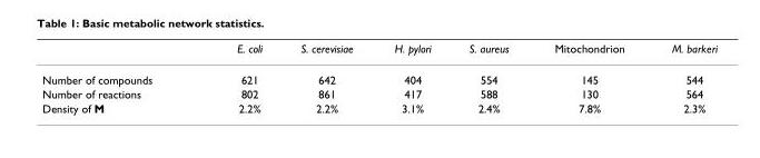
<table><thead><tr><td></td><td>E. coli</td><td>S. cerevisiae</td><td>H. pylori</td><td>S. aureus</td><td>Mitochondrion</td><td>M. barkeri</td></tr></thead><tbody><tr><td>Number of compounds</td><td>621</td><td>642</td><td>404</td><td>554</td><td>145</td><td>544</td></tr><tr><td>Number of reactions</td><td>802</td><td>861</td><td>417</td><td>588</td><td>130</td><td>564</td></tr><tr><td>Density of M</td><td>2.2%</td><td>2.2%</td><td>3.1%</td><td>2.4%</td><td>7.8%</td><td>2.3%</td></tr></tbody></table>